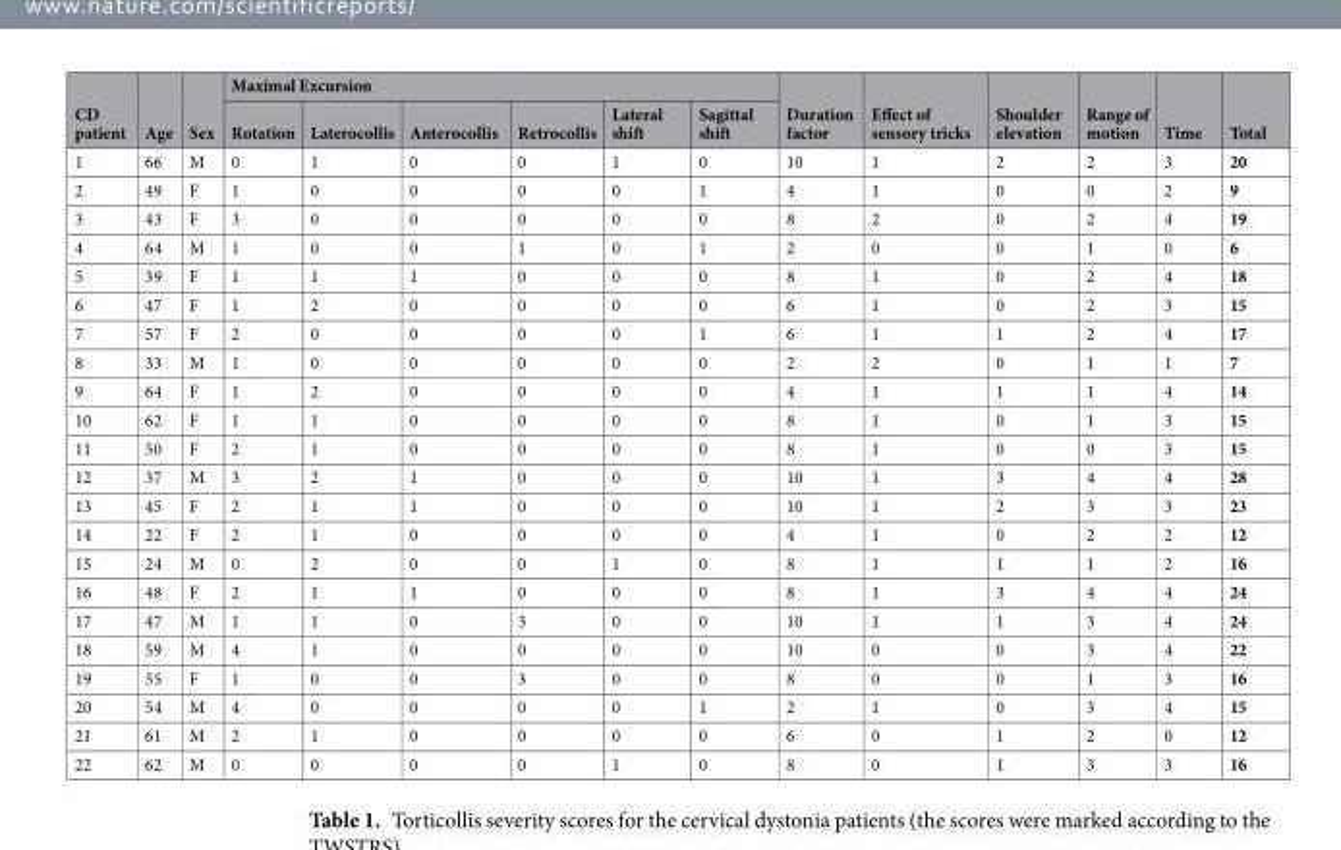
<table><thead><tr><td rowspan="2">CD patient</td><td rowspan="2">Age</td><td rowspan="2">Sex</td><td colspan="6">Maximal Excursion</td><td rowspan="2">Duration factor</td><td rowspan="2">Effect of sensory tricks</td><td rowspan="2">Shoulder elevation</td><td rowspan="2">Range of motion</td><td rowspan="2">Time</td><td rowspan="2">Total</td></tr><tr><td>Rotation</td><td>Laterocollis</td><td>Anterocollis</td><td>Retrocollis</td><td>Lateral shift</td><td>Sagittal shift</td></tr></thead><tbody><tr><td>1</td><td>66</td><td>M</td><td>0</td><td>1</td><td>0</td><td>0</td><td>1</td><td>0</td><td>10</td><td>1</td><td>2</td><td>2</td><td>3</td><td>20</td></tr><tr><td>2</td><td>49</td><td>F</td><td>1</td><td>0</td><td>0</td><td>0</td><td>0</td><td>1</td><td>4</td><td>1</td><td>0</td><td>0</td><td>2</td><td>9</td></tr><tr><td>3</td><td>43</td><td>F</td><td>3</td><td>0</td><td>0</td><td>0</td><td>0</td><td>0</td><td>8</td><td>2</td><td>0</td><td>2</td><td>4</td><td>19</td></tr><tr><td>4</td><td>64</td><td>M</td><td>1</td><td>0</td><td>0</td><td>1</td><td>0</td><td>1</td><td>2</td><td>0</td><td>0</td><td>1</td><td>0</td><td>6</td></tr><tr><td>5</td><td>39</td><td>F</td><td>1</td><td>1</td><td>1</td><td>0</td><td>0</td><td>0</td><td>8</td><td>1</td><td>0</td><td>2</td><td>4</td><td>18</td></tr><tr><td>6</td><td>47</td><td>F</td><td>1</td><td>2</td><td>0</td><td>0</td><td>0</td><td>0</td><td>6</td><td>1</td><td>0</td><td>2</td><td>3</td><td>15</td></tr><tr><td>7</td><td>57</td><td>F</td><td>2</td><td>0</td><td>0</td><td>0</td><td>0</td><td>1</td><td>6</td><td>1</td><td>1</td><td>2</td><td>4</td><td>17</td></tr><tr><td>8</td><td>33</td><td>M</td><td>1</td><td>0</td><td>0</td><td>0</td><td>0</td><td>0</td><td>2</td><td>2</td><td>0</td><td>1</td><td>1</td><td>7</td></tr><tr><td>9</td><td>64</td><td>F</td><td>1</td><td>2</td><td>0</td><td>0</td><td>0</td><td>0</td><td>4</td><td>1</td><td>1</td><td>1</td><td>4</td><td>14</td></tr><tr><td>10</td><td>62</td><td>F</td><td>1</td><td>1</td><td>0</td><td>0</td><td>0</td><td>0</td><td>8</td><td>1</td><td>0</td><td>1</td><td>3</td><td>15</td></tr><tr><td>11</td><td>50</td><td>F</td><td>2</td><td>1</td><td>0</td><td>0</td><td>0</td><td>0</td><td>8</td><td>1</td><td>0</td><td>0</td><td>3</td><td>15</td></tr><tr><td>12</td><td>37</td><td>M</td><td>3</td><td>2</td><td>1</td><td>0</td><td>0</td><td>0</td><td>10</td><td>1</td><td>3</td><td>4</td><td>4</td><td>28</td></tr><tr><td>13</td><td>45</td><td>F</td><td>2</td><td>1</td><td>1</td><td>0</td><td>0</td><td>0</td><td>10</td><td>1</td><td>2</td><td>3</td><td>3</td><td>23</td></tr><tr><td>14</td><td>22</td><td>F</td><td>2</td><td>1</td><td>0</td><td>0</td><td>0</td><td>0</td><td>4</td><td>1</td><td>0</td><td>2</td><td>2</td><td>12</td></tr><tr><td>15</td><td>24</td><td>M</td><td>0</td><td>2</td><td>0</td><td>0</td><td>1</td><td>0</td><td>8</td><td>1</td><td>1</td><td>1</td><td>2</td><td>16</td></tr><tr><td>16</td><td>48</td><td>F</td><td>2</td><td>1</td><td>1</td><td>0</td><td>0</td><td>0</td><td>8</td><td>1</td><td>3</td><td>4</td><td>4</td><td>24</td></tr><tr><td>17</td><td>47</td><td>M</td><td>1</td><td>1</td><td>0</td><td>3</td><td>0</td><td>0</td><td>10</td><td>1</td><td>1</td><td>3</td><td>4</td><td>24</td></tr><tr><td>18</td><td>59</td><td>M</td><td>4</td><td>1</td><td>0</td><td>0</td><td>0</td><td>0</td><td>10</td><td>0</td><td>0</td><td>3</td><td>4</td><td>22</td></tr><tr><td>19</td><td>55</td><td>F</td><td>1</td><td>0</td><td>0</td><td>3</td><td>0</td><td>0</td><td>8</td><td>0</td><td>0</td><td>1</td><td>3</td><td>16</td></tr><tr><td>20</td><td>54</td><td>M</td><td>4</td><td>0</td><td>0</td><td>0</td><td>0</td><td>1</td><td>2</td><td>1</td><td>0</td><td>3</td><td>4</td><td>15</td></tr><tr><td>21</td><td>61</td><td>M</td><td>2</td><td>1</td><td>0</td><td>0</td><td>0</td><td>0</td><td>6</td><td>0</td><td>1</td><td>2</td><td>0</td><td>12</td></tr><tr><td>22</td><td>62</td><td>M</td><td>0</td><td>0</td><td>0</td><td>0</td><td>1</td><td>0</td><td>8</td><td>0</td><td>1</td><td>3</td><td>3</td><td>16</td></tr></tbody></table>